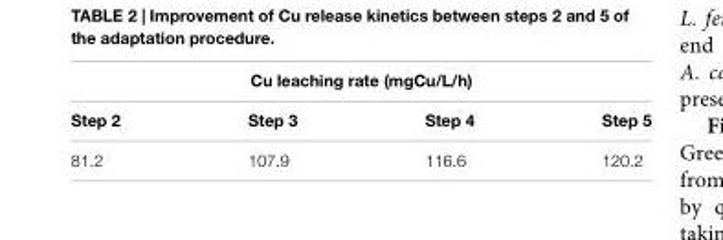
<table><thead><tr><td colspan="4">Cu leaching rate (mgCu/L/h)</td></tr><tr><td>Step 2</td><td>Step 3</td><td>Step 4</td><td>Step 5</td></tr></thead><tbody><tr><td>81.2</td><td>107.9</td><td>116.6</td><td>120.2</td></tr></tbody></table>